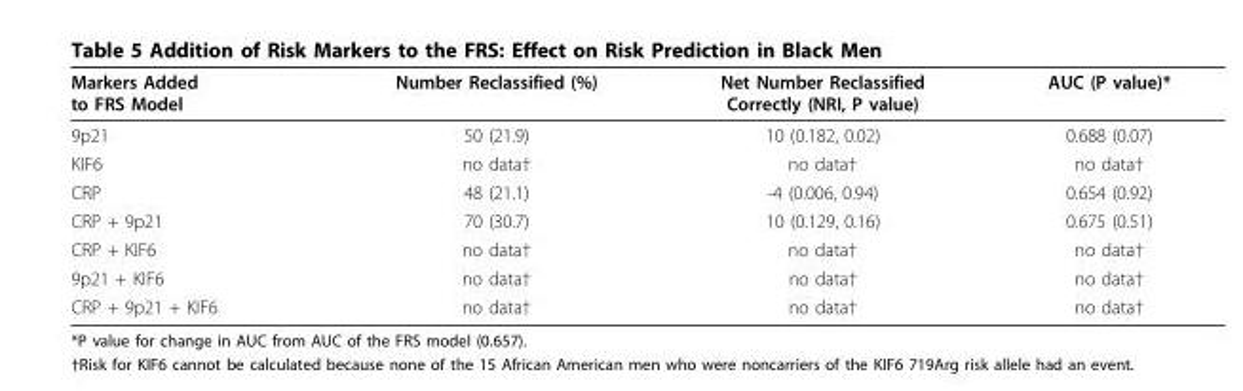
<table><thead><tr><td>Markers Added to FRS Model</td><td>Number Reclassified (%)</td><td>Net Number Reclassified Correctly (NRI, P value)</td><td>AUC (P value)*</td></tr></thead><tbody><tr><td>9p21</td><td>50 (21.9)</td><td>10 (0.182, 0.02)</td><td>0.688 (0.07)</td></tr><tr><td>KIF6</td><td>no data†</td><td>no data†</td><td>no data†</td></tr><tr><td>CRP</td><td>48 (21.1)</td><td>-4 (0.006, 0.94)</td><td>0.654 (0.92)</td></tr><tr><td>CRP + 9p21</td><td>70 (30.7)</td><td>10 (0.129, 0.16)</td><td>0.675 (0.51)</td></tr><tr><td>CRP + KIF6</td><td>no data†</td><td>no data†</td><td>no data†</td></tr><tr><td>9p21 + KIF6</td><td>no data†</td><td>no data†</td><td>no data†</td></tr><tr><td>CRP + 9p21 + KIF6</td><td>no data†</td><td>no data†</td><td>no data†</td></tr></tbody></table>